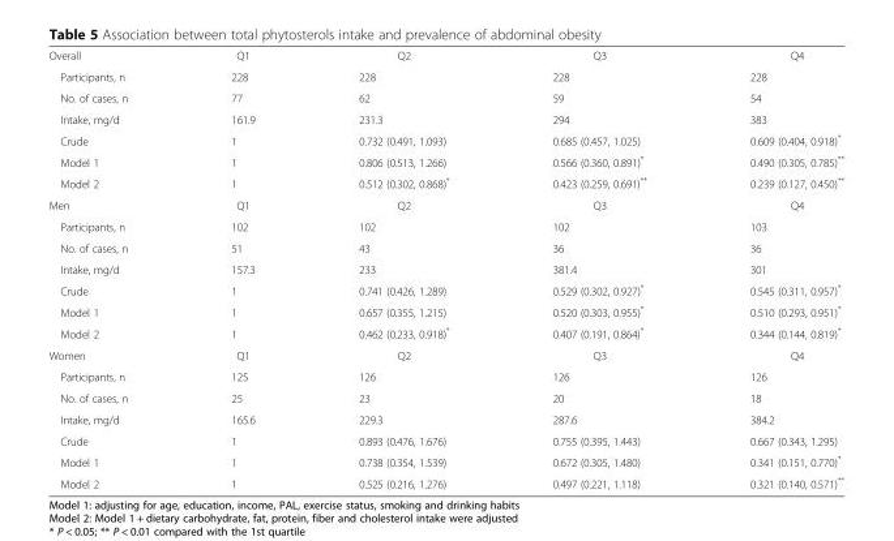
<table><tbody><tr><td>Overall</td><td>Q1</td><td>Q2</td><td>Q3</td><td>Q4</td></tr><tr><td>Participants, n</td><td>228</td><td>228</td><td>228</td><td>228</td></tr><tr><td>No. of cases, n</td><td>77</td><td>62</td><td>59</td><td>54</td></tr><tr><td>Intake, mg/d</td><td>161.9</td><td>231.3</td><td>294</td><td>383</td></tr><tr><td>Crude</td><td>1</td><td>0.732 (0.491, 1.093)</td><td>0.685 (0.457, 1.025)</td><td>0.609 (0.404, 0.918)*</td></tr><tr><td>Model 1</td><td>1</td><td>0.806 (0.513, 1.266)</td><td>0.566 (0.360, 0.891)*</td><td>0.490 (0.305, 0.785)**</td></tr><tr><td>Model 2</td><td>1</td><td>0.512 (0.302, 0.868)*</td><td>0.423 (0.259, 0.691)**</td><td>0.239 (0.127, 0.450)**</td></tr><tr><td>Men</td><td>Q1</td><td>Q2</td><td>Q3</td><td>Q4</td></tr><tr><td>Participants, n</td><td>102</td><td>102</td><td>102</td><td>103</td></tr><tr><td>No. of cases, n</td><td>51</td><td>43</td><td>36</td><td>36</td></tr><tr><td>Intake, mg/d</td><td>157.3</td><td>233</td><td>381.4</td><td>301</td></tr><tr><td>Crude</td><td>1</td><td>0.741 (0.426, 1.289)</td><td>0.529 (0.302, 0.927)*</td><td>0.545 (0.311, 0.957)*</td></tr><tr><td>Model 1</td><td>1</td><td>0.657 (0.355, 1.215)</td><td>0.520 (0.303, 0.955)*</td><td>0.510 (0.293, 0.951)*</td></tr><tr><td>Model 2</td><td>1</td><td>0.462 (0.233, 0.918)*</td><td>0.407 (0.191, 0.864)*</td><td>0.344 (0.144, 0.819)*</td></tr><tr><td>Women</td><td>Q1</td><td>Q2</td><td>Q3</td><td>Q4</td></tr><tr><td>Participants, n</td><td>125</td><td>126</td><td>126</td><td>126</td></tr><tr><td>No. of cases, n</td><td>25</td><td>23</td><td>20</td><td>18</td></tr><tr><td>Intake, mg/d</td><td>165.6</td><td>229.3</td><td>287.6</td><td>384.2</td></tr><tr><td>Crude</td><td>1</td><td>0.893 (0.476, 1.676)</td><td>0.755 (0.395, 1.443)</td><td>0.667 (0.343, 1.295)</td></tr><tr><td>Model 1</td><td>1</td><td>0.738 (0.354, 1.539)</td><td>0.672 (0.305, 1.480)</td><td>0.341 (0.151, 0.770)*</td></tr><tr><td>Model 2</td><td>1</td><td>0.525 (0.216, 1.276)</td><td>0.497 (0.221, 1.118)</td><td>0.321 (0.140, 0.571)**</td></tr></tbody></table>